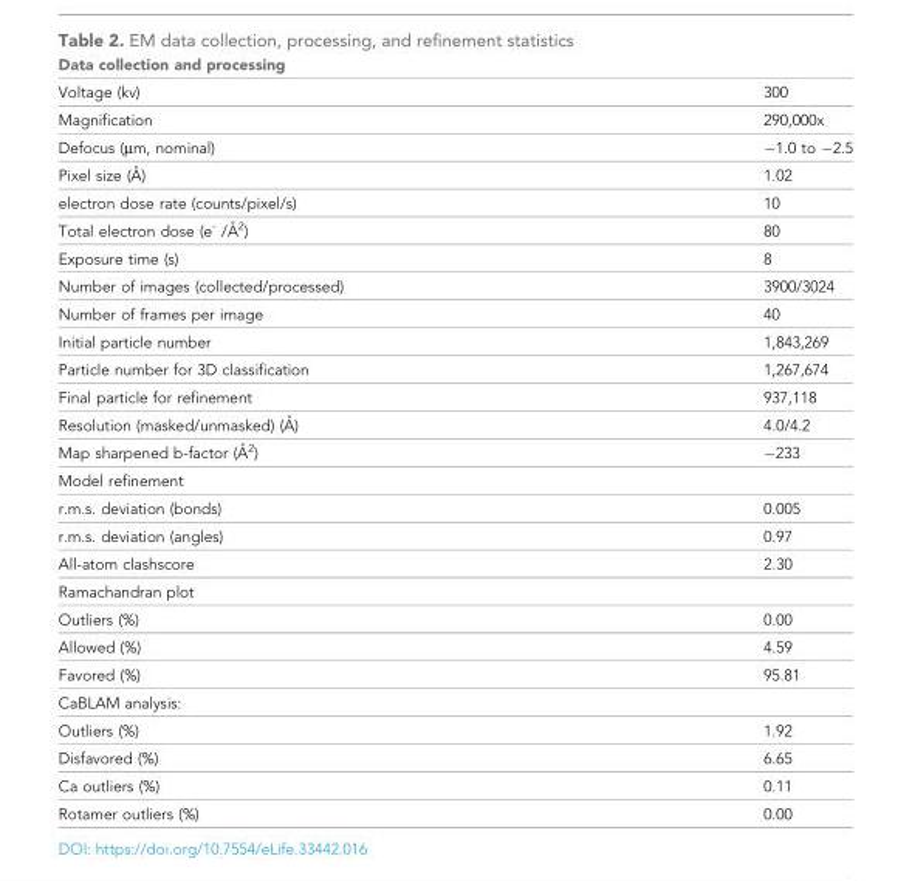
<table><thead><tr><td colspan="2">Data collection and processing</td></tr><tr><td>Voltage (kv)</td><td>300</td></tr></thead><tbody><tr><td>Magnification</td><td>290,000x</td></tr><tr><td>Defocus (μm, nominal)</td><td>−1.0 to −2.5</td></tr><tr><td>Pixel size (A˚ )</td><td>1.02</td></tr><tr><td>electron dose rate (counts/pixel/s)</td><td>10</td></tr><tr><td>Total electron dose (e- /A˚ 2)</td><td>80</td></tr><tr><td>Exposure time (s)</td><td>8</td></tr><tr><td>Number of images (collected/processed)</td><td>3900/3024</td></tr><tr><td>Number of frames per image</td><td>40</td></tr><tr><td>Initial particle number</td><td>1,843,269</td></tr><tr><td>Particle number for 3D classification</td><td>1,267,674</td></tr><tr><td>Final particle for refinement</td><td>937,118</td></tr><tr><td>Resolution (masked/unmasked) (A˚ )</td><td>4.0/4.2</td></tr><tr><td>Map sharpened b-factor (A˚ 2)</td><td>−233</td></tr><tr><td colspan="2">Model refinement</td></tr><tr><td>r.m.s. deviation (bonds)</td><td>0.005</td></tr><tr><td>r.m.s. deviation (angles)</td><td>0.97</td></tr><tr><td>All-atom clashscore</td><td>2.30</td></tr><tr><td colspan="2">Ramachandran plot</td></tr><tr><td>Outliers (%)</td><td>0.00</td></tr><tr><td>Allowed (%)</td><td>4.59</td></tr><tr><td>Favored (%)</td><td>95.81</td></tr><tr><td colspan="2">CaBLAM analysis:</td></tr><tr><td>Outliers (%)</td><td>1.92</td></tr><tr><td>Disfavored (%)</td><td>6.65</td></tr><tr><td>Ca outliers (%)</td><td>0.11</td></tr><tr><td>Rotamer outliers (%)</td><td>0.00</td></tr></tbody></table>